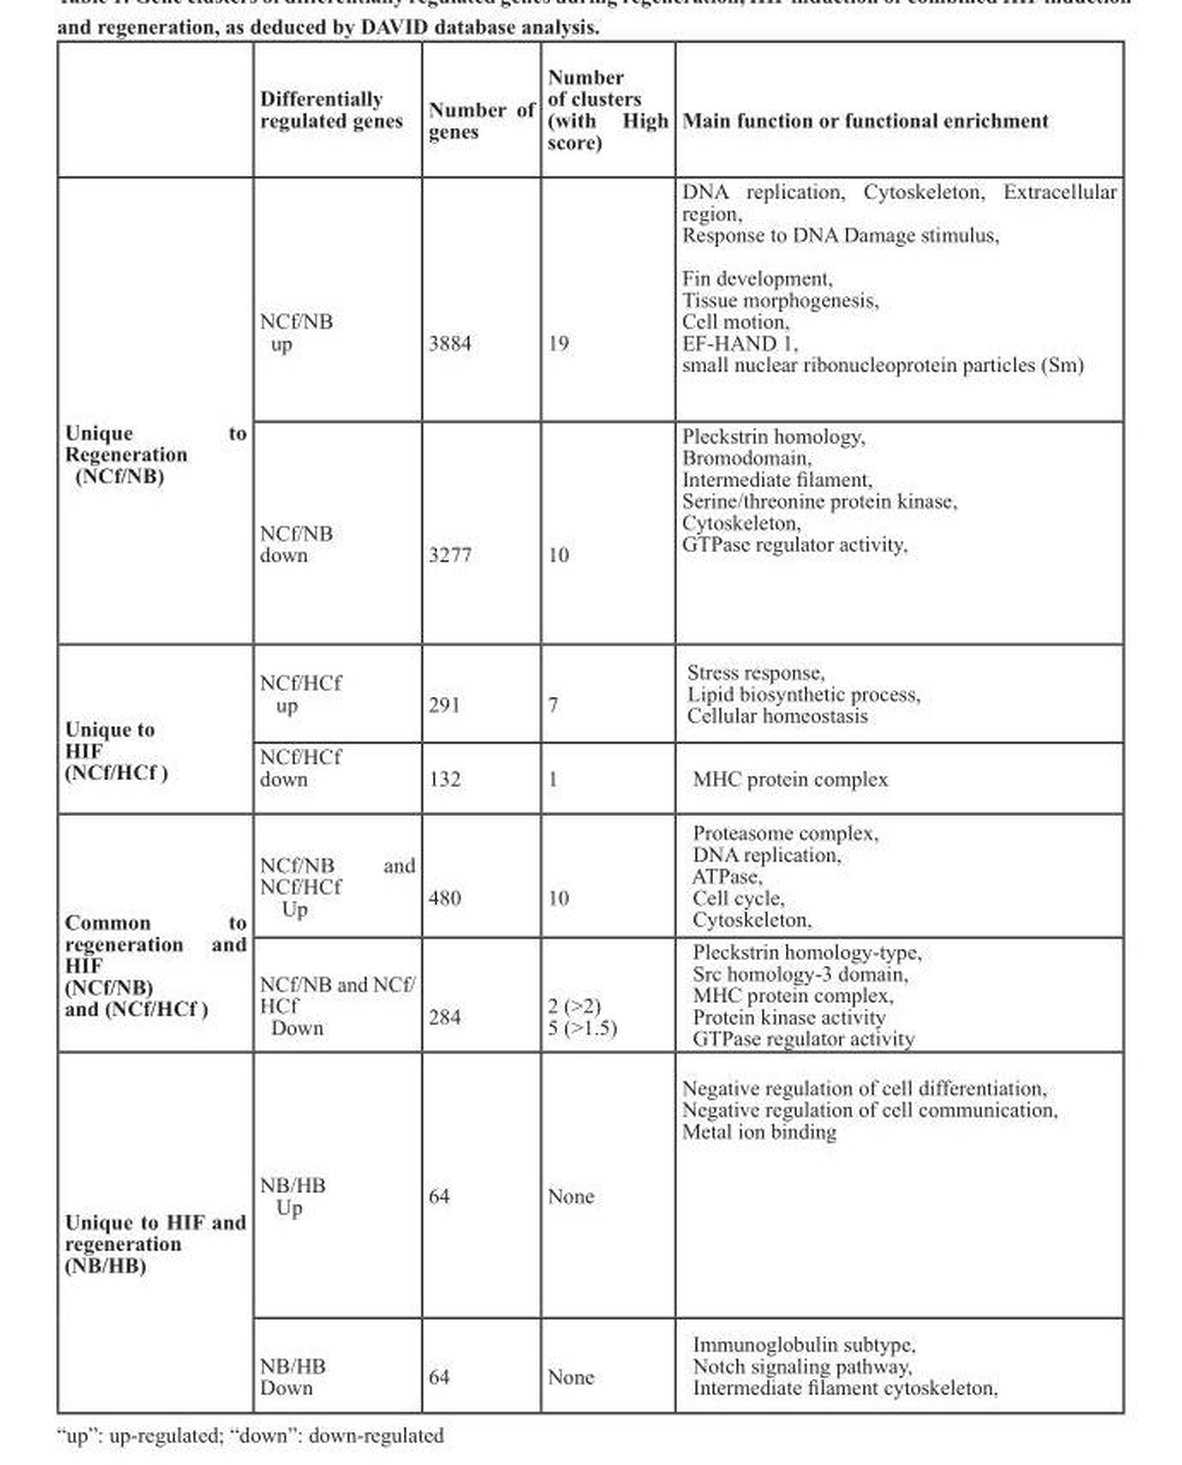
<table><thead><tr><td></td><td>Differentially regulated genes</td><td>Number of genes</td><td>Number of clusters (with High score)</td><td>Main function or functional enrichment</td></tr></thead><tbody><tr><td rowspan="2">Unique to Regeneration (NCf/NB)</td><td>NCf/NB up</td><td>3884</td><td>19</td><td>DNA replication, Cytoskeleton, Extracellular region, Response to DNA Damage stimulus, Fin development, Tissue morphogenesis, Cell motion, EF-HAND 1, small nuclear ribonucleoprotein particles (Sm)</td></tr><tr><td>NCf/NB down</td><td>3277</td><td>10</td><td>Pleckstrin homology, Bromodomain, Intermediate filament, Serine/threonine protein kinase, Cytoskeleton, GTPase regulator activity,</td></tr><tr><td rowspan="2">Unique to HIF (NCf/HCf )</td><td>NCf/HCf up</td><td>291</td><td>7</td><td>Stress response, Lipid biosynthetic process, Cellular homeostasis</td></tr><tr><td>NCf/HCf down</td><td>132</td><td>1</td><td>MHC protein complex</td></tr><tr><td rowspan="2">Common to regeneration and HIF (NCf/NB) and (NCf/HCf )</td><td>NCf/NB and NCf/HCf Up</td><td>480</td><td>10</td><td>Proteasome complex, DNA replication, ATPase, Cell cycle, Cytoskeleton,</td></tr><tr><td>NCf/NB and NCf/ HCf Down</td><td>284</td><td>2 (&gt;2) 5 (&gt;1.5)</td><td>Pleckstrin homology-type, Src homology-3 domain, MHC protein complex, Protein kinase activity GTPase regulator activity</td></tr><tr><td rowspan="2">Unique to HIF and regeneration (NB/HB)</td><td>NB/HB Up</td><td>64</td><td>None</td><td>Negative regulation of cell differentiation, Negative regulation of cell communication, Metal ion binding</td></tr><tr><td>NB/HB Down</td><td>64</td><td>None</td><td>Immunoglobulin subtype, Notch signaling pathway, Intermediate filament cytoskeleton,</td></tr></tbody></table>